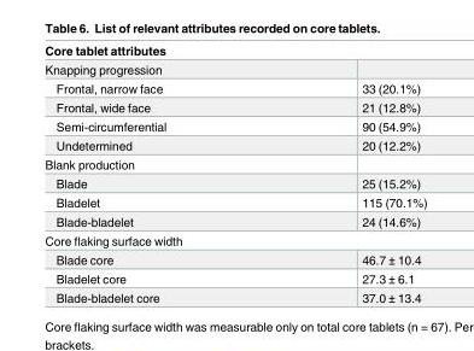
<table><thead><tr><td colspan="2">Core tablet attributes</td></tr><tr><td>Knapping progression</td><td></td></tr></thead><tbody><tr><td>Frontal, narrow face</td><td>33 (20.1%)</td></tr><tr><td>Frontal, wide face</td><td>21 (12.8%)</td></tr><tr><td>Semi-circumferential</td><td>90 (54.9%)</td></tr><tr><td>Undetermined</td><td>20 (12.2%)</td></tr><tr><td colspan="2">Blank production</td></tr><tr><td>Blade</td><td>25 (15.2%)</td></tr><tr><td>Bladelet</td><td>115 (70.1%)</td></tr><tr><td>Blade-bladelet</td><td>24 (14.6%)</td></tr><tr><td colspan="2">Core flaking surface width</td></tr><tr><td>Blade core</td><td>46.7 ± 10.4</td></tr><tr><td>Bladelet core</td><td>27.3 ± 6.1</td></tr><tr><td>Blade-bladelet core</td><td>37.0 ± 13.4</td></tr></tbody></table>